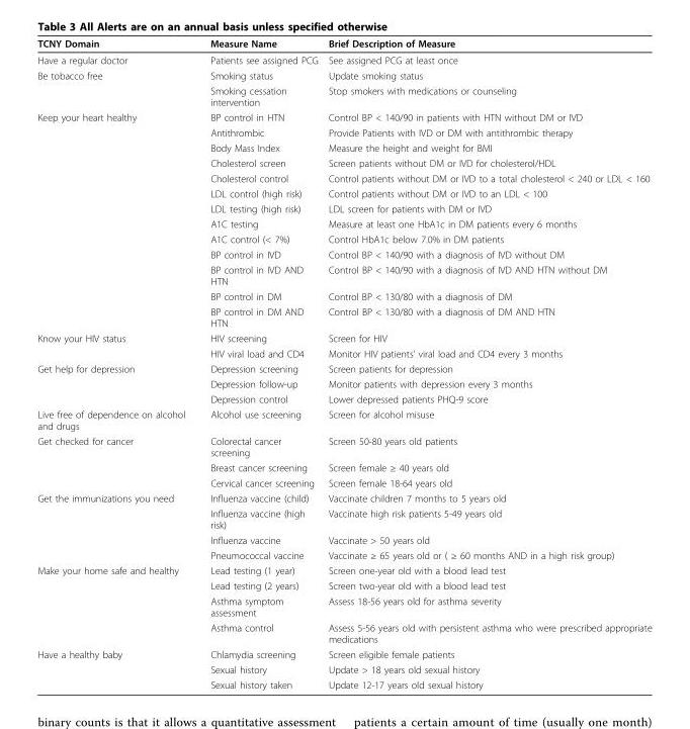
<table><thead><tr><td>TCNY Domain</td><td>Measure Name</td><td>Brief Description of Measure</td></tr></thead><tbody><tr><td>Have a regular doctor</td><td>Patients see assigned PCG</td><td>See assigned PCG at least once</td></tr><tr><td rowspan="2">Be tobacco free</td><td>Smoking status</td><td>Update smoking status</td></tr><tr><td>Smoking cessation intervention</td><td>Stop smokers with medications or counseling</td></tr><tr><td rowspan="13">Keep your heart healthy</td><td>BP control in HTN</td><td>Control BP &lt; 140/90 in patients with HTN without DM or IVD</td></tr><tr><td>Antithrombic</td><td>Provide Patients with IVD or DM with antithrombic therapy</td></tr><tr><td>Body Mass Index</td><td>Measure the height and weight for BMI</td></tr><tr><td>Cholesterol screen</td><td>Screen patients without DM or IVD for cholesterol/HDL</td></tr><tr><td>Cholesterol control</td><td>Control patients without DM or IVD to a total cholesterol &lt; 240 or LDL &lt; 160</td></tr><tr><td>LDL control (high risk)</td><td>Control patients without DM or IVD to an LDL &lt; 100</td></tr><tr><td>LDL testing (high risk)</td><td>LDL screen for patients with DM or IVD</td></tr><tr><td>A1C testing</td><td>Measure at least one HbA1c in DM patients every 6 months</td></tr><tr><td>A1C control (&lt; 7%)</td><td>Control HbA1c below 7.0% in DM patients</td></tr><tr><td>BP control in IVD</td><td>Control BP &lt; 140/90 with a diagnosis of IVD without DM</td></tr><tr><td>BP control in IVD AND HTN</td><td>Control BP &lt; 140/90 with a diagnosis of IVD AND HTN without DM</td></tr><tr><td>BP control in DM</td><td>Control BP &lt; 130/80 with a diagnosis of DM</td></tr><tr><td>BP control in DM AND HTN</td><td>Control BP &lt; 130/80 with a diagnosis of DM AND HTN</td></tr><tr><td rowspan="2">Know your HIV status</td><td>HIV screening</td><td>Screen for HIV</td></tr><tr><td>HIV viral load and CD4</td><td>Monitor HIV patients’ viral load and CD4 every 3 months</td></tr><tr><td rowspan="3">Get help for depression</td><td>Depression screening</td><td>Screen patients for depression</td></tr><tr><td>Depression follow-up</td><td>Monitor patients with depression every 3 months</td></tr><tr><td>Depression control</td><td>Lower depressed patients PHQ-9 score</td></tr><tr><td>Live free of dependence on alcohol and drugs</td><td>Alcohol use screening</td><td>Screen for alcohol misuse</td></tr><tr><td rowspan="3">Get checked for cancer</td><td>Colorectal cancer screening</td><td>Screen 50-80 years old patients</td></tr><tr><td>Breast cancer screening</td><td>Screen female ≥ 40 years old</td></tr><tr><td>Cervical cancer screening</td><td>Screen female 18-64 years old</td></tr><tr><td rowspan="4">Get the immunizations you need</td><td>Influenza vaccine (child)</td><td>Vaccinate children 7 months to 5 years old</td></tr><tr><td>Influenza vaccine (high risk)</td><td>Vaccinate high risk patients 5-49 years old</td></tr><tr><td>Influenza vaccine</td><td>Vaccinate &gt; 50 years old</td></tr><tr><td>Pneumococcal vaccine</td><td>Vaccinate ≥ 65 years old or ( ≥ 60 months AND in a high risk group)</td></tr><tr><td rowspan="4">Make your home safe and healthy</td><td>Lead testing (1 year)</td><td>Screen one-year old with a blood lead test</td></tr><tr><td>Lead testing (2 years)</td><td>Screen two-year old with a blood lead test</td></tr><tr><td>Asthma symptom assessment</td><td>Assess 18-56 years old for asthma severity</td></tr><tr><td>Asthma control</td><td>Assess 5-56 years old with persistent asthma who were prescribed appropriate medications</td></tr><tr><td rowspan="3">Have a healthy baby</td><td>Chlamydia screening</td><td>Screen eligible female patients</td></tr><tr><td>Sexual history</td><td>Update &gt; 18 years old sexual history</td></tr><tr><td>Sexual history taken</td><td>Update 12-17 years old sexual history</td></tr></tbody></table>